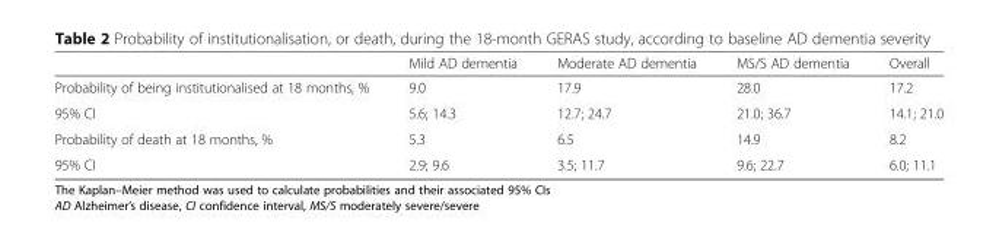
<table><thead><tr><td></td><td>Mild AD dementia</td><td>Moderate AD dementia</td><td>MS/S AD dementia</td><td>Overall</td></tr></thead><tbody><tr><td>Probability of being institutionalised at 18 months, %</td><td>9.0</td><td>17.9</td><td>28.0</td><td>17.2</td></tr><tr><td>95% CI</td><td>5.6; 14.3</td><td>12.7; 24.7</td><td>21.0; 36.7</td><td>14.1; 21.0</td></tr><tr><td>Probability of death at 18 months, %</td><td>5.3</td><td>6.5</td><td>14.9</td><td>8.2</td></tr><tr><td>95% CI</td><td>2.9; 9.6</td><td>3.5; 11.7</td><td>9.6; 22.7</td><td>6.0; 11.1</td></tr></tbody></table>